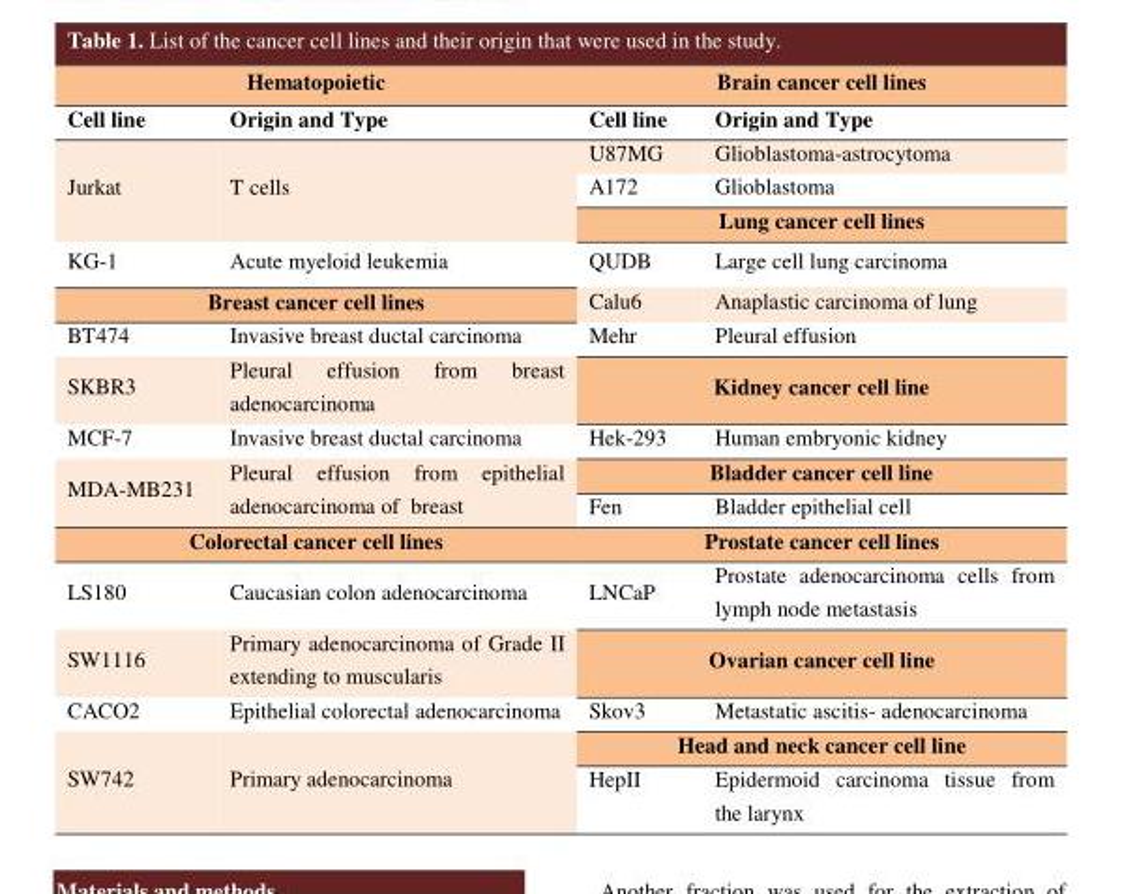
<table><thead><tr><td colspan="2">Hematopoietic</td><td colspan="2">Brain cancer cell lines</td></tr><tr><td>Cell line</td><td>Origin and Type</td><td>Cell line</td><td>Origin and Type</td></tr></thead><tbody><tr><td rowspan="3">Jurkat</td><td rowspan="3">T cells</td><td>U87MG</td><td>Glioblastoma-astrocytoma</td></tr><tr><td>A172</td><td>Glioblastoma</td></tr><tr><td colspan="2">Lung cancer cell lines</td></tr><tr><td>KG-1</td><td>Acute myeloid leukemia</td><td>QUDB</td><td>Large cell lung carcinoma</td></tr><tr><td colspan="2">Breast cancer cell lines</td><td>Calu6</td><td>Anaplastic carcinoma of lung</td></tr><tr><td>BT474</td><td>Invasive breast ductal carcinoma</td><td>Mehr</td><td>Pleural effusion</td></tr><tr><td>SKBR3</td><td>Pleural effusion from breast adenocarcinoma</td><td colspan="2">Kidney cancer cell line</td></tr><tr><td>MCF-7</td><td>Invasive breast ductal carcinoma</td><td>Hek-293</td><td>Human embryonic kidney</td></tr><tr><td rowspan="2">MDA-MB231</td><td rowspan="2">Pleural effusion from epithelial adenocarcinoma of breast</td><td colspan="2">Bladder cancer cell line</td></tr><tr><td>Fen</td><td>Bladder epithelial cell</td></tr><tr><td colspan="2">Colorectal cancer cell lines</td><td colspan="2">Prostate cancer cell lines</td></tr><tr><td>LS180</td><td>Caucasian colon adenocarcinoma</td><td>LNCaP</td><td>Prostate adenocarcinoma cells from lymph node metastasis</td></tr><tr><td>SW1116</td><td>Primary adenocarcinoma of Grade II extending to muscularis</td><td colspan="2">Ovarian cancer cell line</td></tr><tr><td>CACO2</td><td>Epithelial colorectal adenocarcinoma</td><td>Skov3</td><td>Metastatic ascitis- adenocarcinoma</td></tr><tr><td rowspan="2">SW742</td><td rowspan="2">Primary adenocarcinoma</td><td colspan="2">Head and neck cancer cell line</td></tr><tr><td>HepII</td><td>Epidermoid carcinoma tissue from the larynx</td></tr></tbody></table>